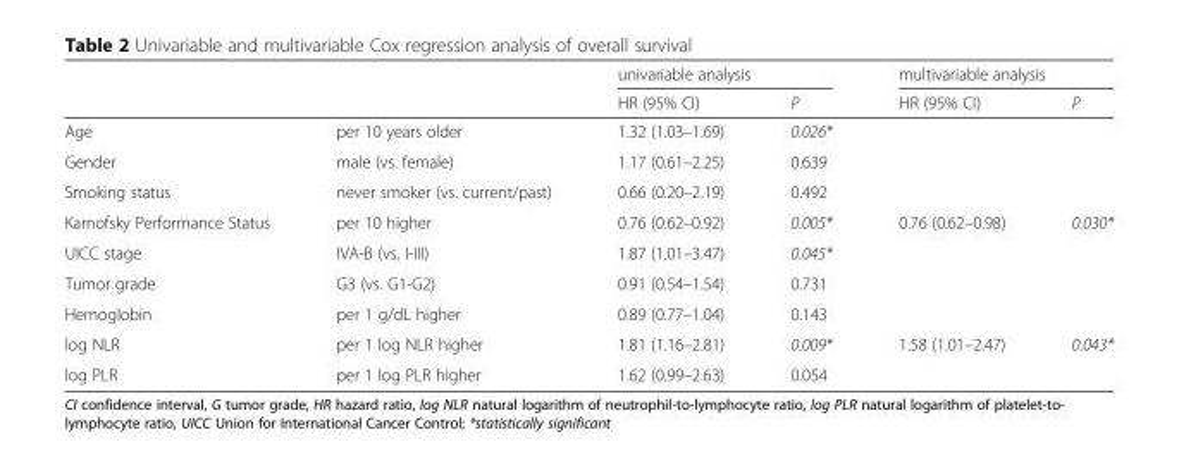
<table><thead><tr><td rowspan="2"></td><td rowspan="2"></td><td colspan="2">univariable analysis</td><td colspan="2">multivariable analysis</td></tr><tr><td>HR (95% CI)</td><td>P</td><td>HR (95% CI)</td><td>P</td></tr></thead><tbody><tr><td>Age</td><td>per 10 years older</td><td>1.32 (1.03–1.69)</td><td>0.026*</td><td></td><td></td></tr><tr><td>Gender</td><td>male (vs. female)</td><td>1.17 (0.61–2.25)</td><td>0.639</td><td></td><td></td></tr><tr><td>Smoking status</td><td>never smoker (vs. current/past)</td><td>0.66 (0.20–2.19)</td><td>0.492</td><td></td><td></td></tr><tr><td>Karnofsky Performance Status</td><td>per 10 higher</td><td>0.76 (0.62–0.92)</td><td>0.005*</td><td>0.76 (0.62–0.98)</td><td>0.030*</td></tr><tr><td>UICC stage</td><td>IVA-B (vs. I-III)</td><td>1.87 (1.01–3.47)</td><td>0.045*</td><td></td><td></td></tr><tr><td>Tumor grade</td><td>G3 (vs. G1-G2)</td><td>0.91 (0.54–1.54)</td><td>0.731</td><td></td><td></td></tr><tr><td>Hemoglobin</td><td>per 1 g/dL higher</td><td>0.89 (0.77–1.04)</td><td>0.143</td><td></td><td></td></tr><tr><td>log NLR</td><td>per 1 log NLR higher</td><td>1.81 (1.16–2.81)</td><td>0.009*</td><td>1.58 (1.01–2.47)</td><td>0.043*</td></tr><tr><td>log PLR</td><td>per 1 log PLR higher</td><td>1.62 (0.99–2.63)</td><td>0.054</td><td></td><td></td></tr></tbody></table>